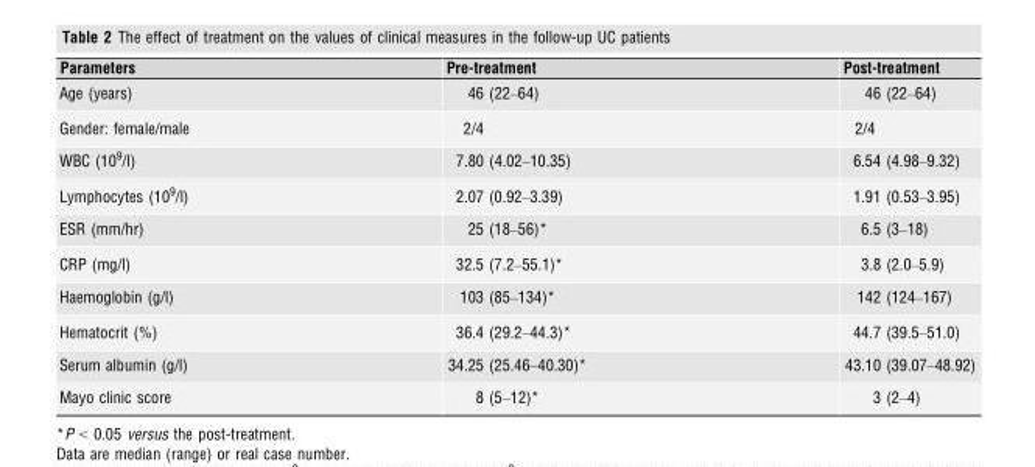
<table><thead><tr><td>Parameters</td><td>Pre-treatment</td><td>Post-treatment</td></tr></thead><tbody><tr><td>Age (years)</td><td>46 (22–64)</td><td>46 (22–64)</td></tr><tr><td>Gender: female/male</td><td>2/4</td><td>2/4</td></tr><tr><td>WBC (10<sup>9</sup>/l)</td><td>7.80 (4.02–10.35)</td><td>6.54 (4.98–9.32)</td></tr><tr><td>Lymphocytes (10<sup>9</sup>/l)</td><td>2.07 (0.92–3.39)</td><td>1.91 (0.53–3.95)</td></tr><tr><td>ESR (mm/hr)</td><td>25 (18–56)*</td><td>6.5 (3–18)</td></tr><tr><td>CRP (mg/l)</td><td>32.5 (7.2–55.1)*</td><td>3.8 (2.0–5.9)</td></tr><tr><td>Haemoglobin (g/l)</td><td>103 (85–134)*</td><td>142 (124–167)</td></tr><tr><td>Hematocrit (%)</td><td>36.4 (29.2–44.3)*</td><td>44.7 (39.5–51.0)</td></tr><tr><td>Serum albumin (g/l)</td><td>34.25 (25.46–40.30)*</td><td>43.10 (39.07–48.92)</td></tr><tr><td>Mayo clinic score</td><td>8 (5–12)*</td><td>3 (2–4)</td></tr></tbody></table>